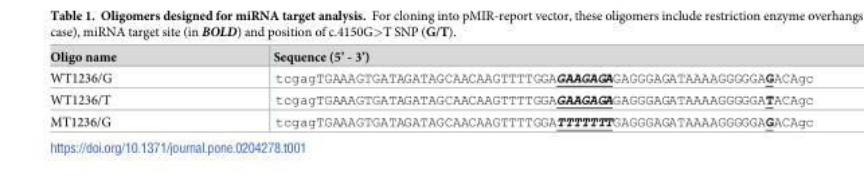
<table><thead><tr><td>Oligo name</td><td>Sequence (5’ - 3’)</td></tr></thead><tbody><tr><td>WT1236/G</td><td>tcgagTGAAAGTGATAGATAGCAACAAGTTTTGGAGAAGAGAGAGGGAGATAAAAGGGGGAGACAgc</td></tr><tr><td>WT1236/T</td><td>tcgagTGAAAGTGATAGATAGCAACAAGTTTTGGAGAAGAGAGAGGGAGATAAAAGGGGGATACAgc</td></tr><tr><td>MT1236/G</td><td>tcgagTGAAAGTGATAGATAGCAACAAGTTTTGGATTTTTTTGAGGGAGATAAAAGGGGGAGACAgc</td></tr></tbody></table>